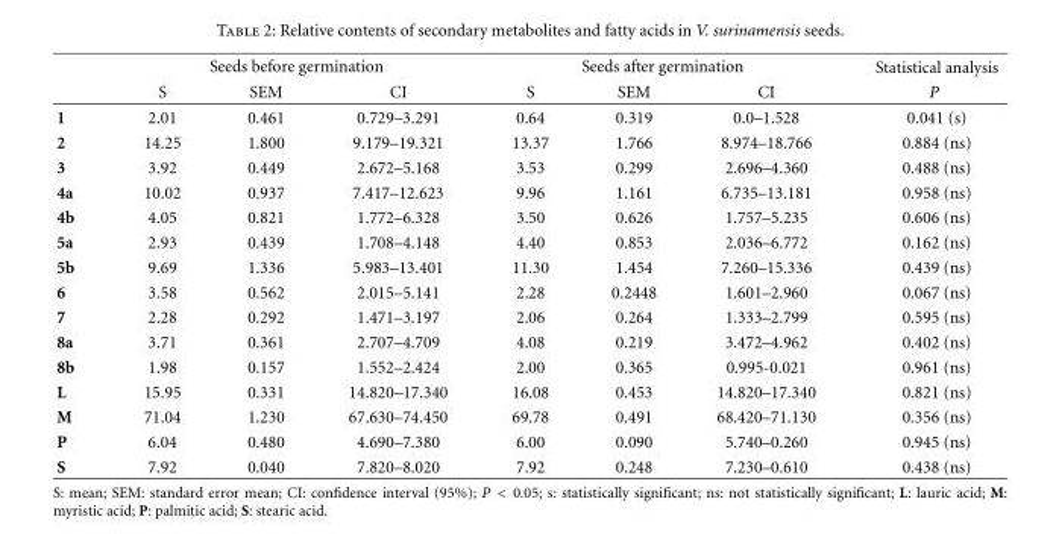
<table><thead><tr><td rowspan="2"></td><td colspan="3">Seeds before germination</td><td colspan="3">Seeds after germination</td><td rowspan="2">Statistical analysis P</td></tr><tr><td>S</td><td>SEM</td><td>CI</td><td>S</td><td>SEM</td><td>CI</td></tr></thead><tbody><tr><td>1</td><td>2.01</td><td>0.461</td><td>0.729–3.291</td><td>0.64</td><td>0.319</td><td>0.0–1.528</td><td>0.041 (s)</td></tr><tr><td>2</td><td>14.25</td><td>1.800</td><td>9.179–19.321</td><td>13.37</td><td>1.766</td><td>8.974–18.766</td><td>0.884 (ns)</td></tr><tr><td>3</td><td>3.92</td><td>0.449</td><td>2.672–5.168</td><td>3.53</td><td>0.299</td><td>2.696–4.360</td><td>0.488 (ns)</td></tr><tr><td>4a</td><td>10.02</td><td>0.937</td><td>7.417–12.623</td><td>9.96</td><td>1.161</td><td>6.735–13.181</td><td>0.958 (ns)</td></tr><tr><td>4b</td><td>4.05</td><td>0.821</td><td>1.772–6.328</td><td>3.50</td><td>0.626</td><td>1.757–5.235</td><td>0.606 (ns)</td></tr><tr><td>5a</td><td>2.93</td><td>0.439</td><td>1.708–4.148</td><td>4.40</td><td>0.853</td><td>2.036–6.772</td><td>0.162 (ns)</td></tr><tr><td>5b</td><td>9.69</td><td>1.336</td><td>5.983–13.401</td><td>11.30</td><td>1.454</td><td>7.260–15.336</td><td>0.439 (ns)</td></tr><tr><td>6</td><td>3.58</td><td>0.562</td><td>2.015–5.141</td><td>2.28</td><td>0.2448</td><td>1.601–2.960</td><td>0.067 (ns)</td></tr><tr><td>7</td><td>2.28</td><td>0.292</td><td>1.471–3.197</td><td>2.06</td><td>0.264</td><td>1.333–2.799</td><td>0.595 (ns)</td></tr><tr><td>8a</td><td>3.71</td><td>0.361</td><td>2.707–4.709</td><td>4.08</td><td>0.219</td><td>3.472–4.962</td><td>0.402 (ns)</td></tr><tr><td>8b</td><td>1.98</td><td>0.157</td><td>1.552–2.424</td><td>2.00</td><td>0.365</td><td>0.995-0.021</td><td>0.961 (ns)</td></tr><tr><td>L</td><td>15.95</td><td>0.331</td><td>14.820–17.340</td><td>16.08</td><td>0.453</td><td>14.820–17.340</td><td>0.821 (ns)</td></tr><tr><td>M</td><td>71.04</td><td>1.230</td><td>67.630–74.450</td><td>69.78</td><td>0.491</td><td>68.420–71.130</td><td>0.356 (ns)</td></tr><tr><td>P</td><td>6.04</td><td>0.480</td><td>4.690–7.380</td><td>6.00</td><td>0.090</td><td>5.740–0.260</td><td>0.945 (ns)</td></tr><tr><td>S</td><td>7.92</td><td>0.040</td><td>7.820–8.020</td><td>7.92</td><td>0.248</td><td>7.230–0.610</td><td>0.438 (ns)</td></tr></tbody></table>